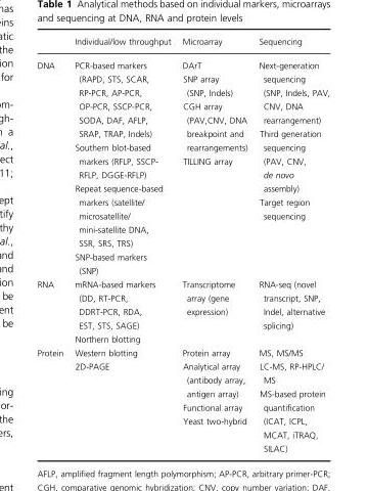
<table><thead><tr><td></td><td>Individual/low throughput</td><td>Microarray</td><td>Sequencing</td></tr></thead><tbody><tr><td>DNA</td><td>PCR-based markers (RAPD, STS, SCAR, RP-PCR, AP-PCR, OP-PCR, SSCP-PCR, SODA, DAF, AFLP, SRAP, TRAP, Indels) Southern blot-based markers (RFLP, SSCP- RFLP, DGGE-RFLP) Repeat sequence-based markers (satellite/ microsatellite/ mini-satellite DNA, SSR, SRS, TRS) SNP-based markers (SNP)</td><td>DArT SNP array (SNP, Indels) CGH array (PAV,CNV, DNA breakpoint and rearrangements) TILLING array</td><td>Next-generation sequencing (SNP, Indels, PAV, CNV, DNA rearrangement) Third generation sequencing (PAV, CNV, de novo assembly) Target region sequencing</td></tr><tr><td>RNA</td><td>mRNA-based markers (DD, RT-PCR, DDRT-PCR, RDA, EST, STS, SAGE) Northern blotting</td><td>Transcriptome array (gene expression)</td><td>RNA-seq (novel transcript, SNP, Indel, alternative splicing)</td></tr><tr><td>Protein</td><td>Western blotting 2D-PAGE</td><td>Protein array Analytical array (antibody array, antigen array) Functional array Yeast two-hybrid</td><td>MS, MS/MS LC-MS, RP-HPLC/ MS MS-based protein quantification (ICAT, ICPL, MCAT, iTRAQ, SILAC)</td></tr></tbody></table>